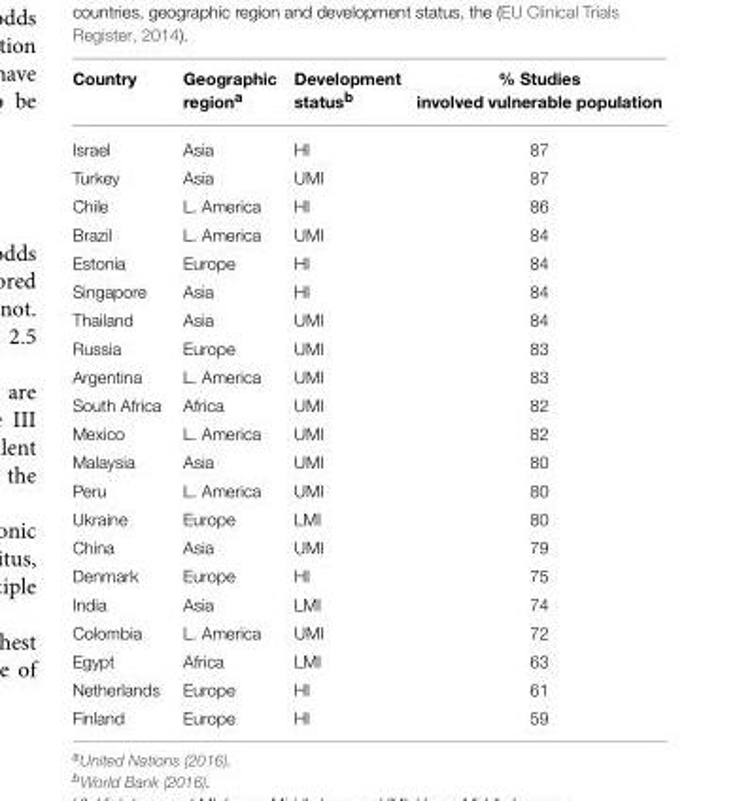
<table><thead><tr><td>Country</td><td>Geographic region<sup>a</sup></td><td>Development status<sup>b</sup></td><td>% Studies involved vulnerable population</td></tr></thead><tbody><tr><td>Israel</td><td>Asia</td><td>HI</td><td>87</td></tr><tr><td>Turkey</td><td>Asia</td><td>UMI</td><td>87</td></tr><tr><td>Chile</td><td>L. America</td><td>HI</td><td>86</td></tr><tr><td>Brazil</td><td>L. America</td><td>UMI</td><td>84</td></tr><tr><td>Estonia</td><td>Europe</td><td>HI</td><td>84</td></tr><tr><td>Singapore</td><td>Asia</td><td>HI</td><td>84</td></tr><tr><td>Thailand</td><td>Asia</td><td>UMI</td><td>84</td></tr><tr><td>Russia</td><td>Europe</td><td>UMI</td><td>83</td></tr><tr><td>Argentina</td><td>L. America</td><td>UMI</td><td>83</td></tr><tr><td>South Africa</td><td>Africa</td><td>UMI</td><td>82</td></tr><tr><td>Mexico</td><td>L. America</td><td>UMI</td><td>82</td></tr><tr><td>Malaysia</td><td>Asia</td><td>UMI</td><td>80</td></tr><tr><td>Peru</td><td>L. America</td><td>UMI</td><td>80</td></tr><tr><td>Ukraine</td><td>Europe</td><td>LMI</td><td>80</td></tr><tr><td>China</td><td>Asia</td><td>UMI</td><td>79</td></tr><tr><td>Denmark</td><td>Europe</td><td>HI</td><td>75</td></tr><tr><td>India</td><td>Asia</td><td>LMI</td><td>74</td></tr><tr><td>Colombia</td><td>L. America</td><td>UMI</td><td>72</td></tr><tr><td>Egypt</td><td>Africa</td><td>LMI</td><td>63</td></tr><tr><td>Netherlands</td><td>Europe</td><td>HI</td><td>61</td></tr><tr><td>Finland</td><td>Europe</td><td>HI</td><td>59</td></tr></tbody></table>